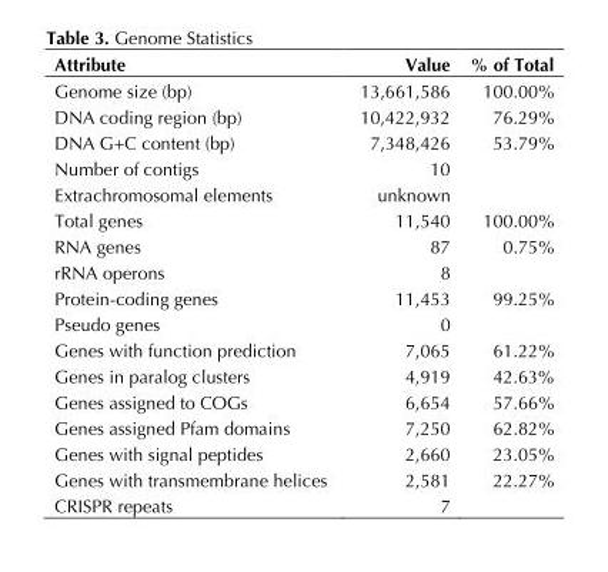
<table><thead><tr><td>Attribute</td><td>Value</td><td>% of Total</td></tr></thead><tbody><tr><td>Genome size (bp)</td><td>13,661,586</td><td>100.00%</td></tr><tr><td>DNA coding region (bp)</td><td>10,422,932</td><td>76.29%</td></tr><tr><td>DNA G+C content (bp)</td><td>7,348,426</td><td>53.79%</td></tr><tr><td>Number of contigs</td><td>10</td><td></td></tr><tr><td>Extrachromosomal elements</td><td>unknown</td><td></td></tr><tr><td>Total genes</td><td>11,540</td><td>100.00%</td></tr><tr><td>RNA genes</td><td>87</td><td>0.75%</td></tr><tr><td>rRNA operons</td><td>8</td><td></td></tr><tr><td>Protein-coding genes</td><td>11,453</td><td>99.25%</td></tr><tr><td>Pseudo genes</td><td>0</td><td></td></tr><tr><td>Genes with function prediction</td><td>7,065</td><td>61.22%</td></tr><tr><td>Genes in paralog clusters</td><td>4,919</td><td>42.63%</td></tr><tr><td>Genes assigned to COGs</td><td>6,654</td><td>57.66%</td></tr><tr><td>Genes assigned Pfam domains</td><td>7,250</td><td>62.82%</td></tr><tr><td>Genes with signal peptides</td><td>2,660</td><td>23.05%</td></tr><tr><td>Genes with transmembrane helices</td><td>2,581</td><td>22.27%</td></tr><tr><td>CRISPR repeats</td><td>7</td><td></td></tr></tbody></table>